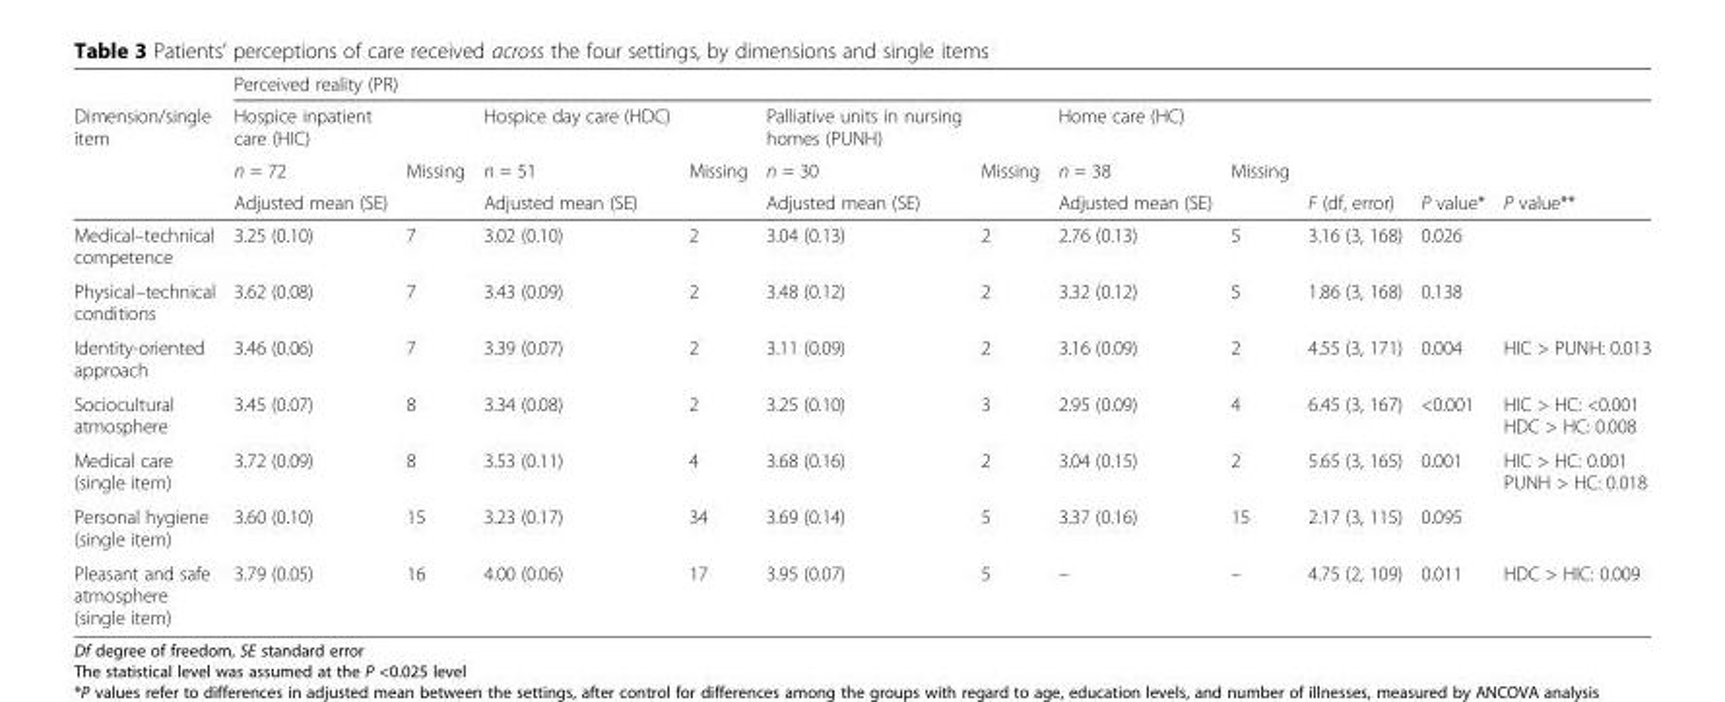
<table><thead><tr><td rowspan="4">Dimension/single item</td><td colspan="11">Perceived reality (PR)</td></tr><tr><td rowspan="3">Hospice inpatient care (HIC) n = 72 Adjusted mean (SE)</td><td rowspan="3">Missing</td><td rowspan="3">Hospice day care (HDC) n = 51 Adjusted mean (SE)</td><td rowspan="3">Missing</td><td rowspan="3">Palliative units in nursing homes (PUNH) n = 30 Adjusted mean (SE)</td><td rowspan="3">Missing</td><td rowspan="3">Home care (HC) n = 38 Adjusted mean (SE)</td><td rowspan="3">Missing</td><td rowspan="3">F (df, error)</td><td rowspan="3">P value*</td><td rowspan="3">P value**</td></tr><tr></tr><tr></tr></thead><tbody><tr><td>Medical–technical competence</td><td>3.25 (0.10)</td><td>7</td><td>3.02 (0.10)</td><td>2</td><td>3.04 (0.13)</td><td>2</td><td>2.76 (0.13)</td><td>5</td><td>3.16 (3, 168)</td><td>0.026</td><td></td></tr><tr><td>Physical–technical conditions</td><td>3.62 (0.08)</td><td>7</td><td>3.43 (0.09)</td><td>2</td><td>3.48 (0.12)</td><td>2</td><td>3.32 (0.12)</td><td>5</td><td>1.86 (3, 168)</td><td>0.138</td><td></td></tr><tr><td>Identity-oriented approach</td><td>3.46 (0.06)</td><td>7</td><td>3.39 (0.07)</td><td>2</td><td>3.11 (0.09)</td><td>2</td><td>3.16 (0.09)</td><td>2</td><td>4.55 (3, 171)</td><td>0.004</td><td>HIC &gt; PUNH: 0.013</td></tr><tr><td>Sociocultural atmosphere</td><td>3.45 (0.07)</td><td>8</td><td>3.34 (0.08)</td><td>2</td><td>3.25 (0.10)</td><td>3</td><td>2.95 (0.09)</td><td>4</td><td>6.45 (3, 167)</td><td>&lt;0.001</td><td>HIC &gt; HC: &lt;0.001 HDC &gt; HC: 0.008</td></tr><tr><td>Medical care (single item)</td><td>3.72 (0.09)</td><td>8</td><td>3.53 (0.11)</td><td>4</td><td>3.68 (0.16)</td><td>2</td><td>3.04 (0.15)</td><td>2</td><td>5.65 (3, 165)</td><td>0.001</td><td>HIC &gt; HC: 0.001 PUNH &gt; HC: 0.018</td></tr><tr><td>Personal hygiene (single item)</td><td>3.60 (0.10)</td><td>15</td><td>3.23 (0.17)</td><td>34</td><td>3.69 (0.14)</td><td>5</td><td>3.37 (0.16)</td><td>15</td><td>2.17 (3, 115)</td><td>0.095</td><td></td></tr><tr><td>Pleasant and safe atmosphere (single item)</td><td>3.79 (0.05)</td><td>16</td><td>4.00 (0.06)</td><td>17</td><td>3.95 (0.07)</td><td>5</td><td>–</td><td>–</td><td>4.75 (2, 109)</td><td>0.011</td><td>HDC &gt; HIC: 0.009</td></tr></tbody></table>